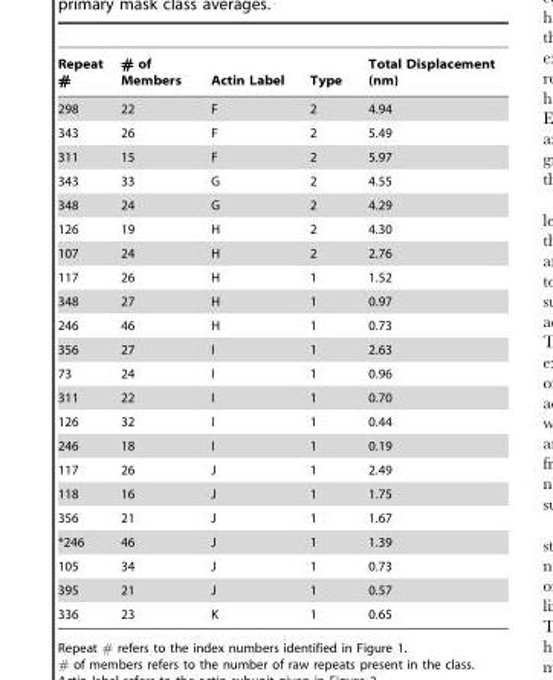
<table><thead><tr><td>Repeat #</td><td># of Members</td><td>Actin Label</td><td>Type</td><td>Total Displacement (nm)</td></tr></thead><tbody><tr><td>298</td><td>22</td><td>F</td><td>2</td><td>4.94</td></tr><tr><td>343</td><td>26</td><td>F</td><td>2</td><td>5.49</td></tr><tr><td>311</td><td>15</td><td>F</td><td>2</td><td>5.97</td></tr><tr><td>343</td><td>33</td><td>G</td><td>2</td><td>4.55</td></tr><tr><td>348</td><td>24</td><td>G</td><td>2</td><td>4.29</td></tr><tr><td>126</td><td>19</td><td>H</td><td>2</td><td>4.30</td></tr><tr><td>107</td><td>24</td><td>H</td><td>2</td><td>2.76</td></tr><tr><td>117</td><td>26</td><td>H</td><td>1</td><td>1.52</td></tr><tr><td>348</td><td>27</td><td>H</td><td>1</td><td>0.97</td></tr><tr><td>246</td><td>46</td><td>H</td><td>1</td><td>0.73</td></tr><tr><td>356</td><td>27</td><td>I</td><td>1</td><td>2.63</td></tr><tr><td>73</td><td>24</td><td>I</td><td>1</td><td>0.96</td></tr><tr><td>311</td><td>22</td><td>I</td><td>1</td><td>0.70</td></tr><tr><td>126</td><td>32</td><td>I</td><td>1</td><td>0.44</td></tr><tr><td>246</td><td>18</td><td>I</td><td>1</td><td>0.19</td></tr><tr><td>117</td><td>26</td><td>J</td><td>1</td><td>2.49</td></tr><tr><td>118</td><td>16</td><td>J</td><td>1</td><td>1.75</td></tr><tr><td>356</td><td>21</td><td>J</td><td>1</td><td>1.67</td></tr><tr><td>*246</td><td>46</td><td>J</td><td>1</td><td>1.39</td></tr><tr><td>105</td><td>34</td><td>J</td><td>1</td><td>0.73</td></tr><tr><td>395</td><td>21</td><td>J</td><td>1</td><td>0.57</td></tr><tr><td>336</td><td>23</td><td>K</td><td>1</td><td>0.65</td></tr></tbody></table>